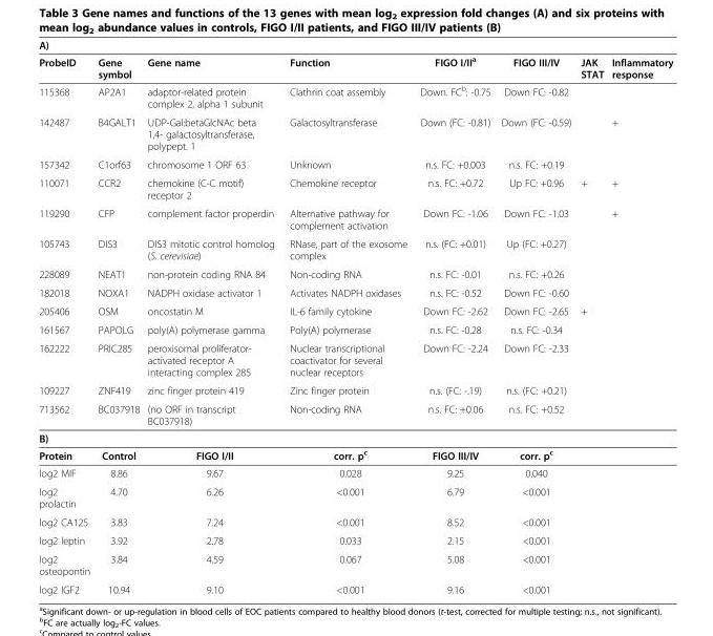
<table><thead><tr><td colspan="8">A)</td></tr><tr><td>ProbeID</td><td>Gene symbol</td><td>Gene name</td><td>Function</td><td>FIGO I/II<sup>a</sup></td><td>FIGO III/IV</td><td>JAK STAT</td><td>Inflammatory response</td></tr></thead><tbody><tr><td>115368</td><td>AP2A1</td><td>adaptor-related protein complex 2, alpha 1 subunit</td><td>Clathrin coat assembly</td><td>Down. FC<sup>b</sup>: -0.75</td><td>Down FC: -0.82</td><td></td><td></td></tr><tr><td>142487</td><td>B4GALT1</td><td>UDP-Gal:betaGlcNAc beta 1,4- galactosyltransferase, polypept. 1</td><td>Galactosyltransferase</td><td>Down (FC: -0.81)</td><td>Down (FC: -0.59)</td><td></td><td>+</td></tr><tr><td>157342</td><td>C1orf63</td><td>chromosome 1 ORF 63</td><td>Unknown</td><td>n.s. FC: +0.003</td><td>n.s. FC: +0.19</td><td></td><td></td></tr><tr><td>110071</td><td>CCR2</td><td>chemokine (C-C motif) receptor 2</td><td>Chemokine receptor</td><td>n.s. FC: +0.72</td><td>Up FC: +0.96</td><td>+</td><td>+</td></tr><tr><td>119290</td><td>CFP</td><td>complement factor properdin</td><td>Alternative pathway for complement activation</td><td>Down FC: -1.06</td><td>Down FC: -1.03</td><td></td><td>+</td></tr><tr><td>105743</td><td>DIS3</td><td>DIS3 mitotic control homolog (S. cerevisiae)</td><td>RNase, part of the exosome complex</td><td>n.s. (FC: +0.01)</td><td>Up (FC: +0.27)</td><td></td><td></td></tr><tr><td>228089</td><td>NEAT1</td><td>non-protein coding RNA 84</td><td>Non-coding RNA</td><td>n.s. FC: -0.01</td><td>n.s. FC: +0.26</td><td></td><td></td></tr><tr><td>182018</td><td>NOXA1</td><td>NADPH oxidase activator 1</td><td>Activates NADPH oxidases</td><td>n.s. FC: -0.52</td><td>Down FC: -0.60</td><td></td><td></td></tr><tr><td>205406</td><td>OSM</td><td>oncostatin M</td><td>IL-6 family cytokine</td><td>Down FC: -2.62</td><td>Down FC: -2.65</td><td>+</td><td></td></tr><tr><td>161567</td><td>PAPOLG</td><td>poly(A) polymerase gamma</td><td>Poly(A) polymerase</td><td>n.s. FC: -0.28</td><td>n.s. FC: -0.34</td><td></td><td></td></tr><tr><td>162222</td><td>PRIC285</td><td>peroxisomal proliferator- activated receptor A interacting complex 285</td><td>Nuclear transcriptional coactivator for several nuclear receptors</td><td>Down FC: -2.24</td><td>Down FC: -2.33</td><td></td><td></td></tr><tr><td>109227</td><td>ZNF419</td><td>zinc finger protein 419</td><td>Zinc finger protein</td><td>n.s. (FC: -.19)</td><td>n.s. (FC: +0.21)</td><td></td><td></td></tr><tr><td>713562</td><td>BC037918</td><td>(no ORF in transcript BC037918)</td><td>Non-coding RNA</td><td>n.s. FC: +0.06</td><td>n.s. FC: +0.52</td><td></td><td></td></tr><tr><td colspan="8">B)</td></tr><tr><td>Protein</td><td>Control</td><td>FIGO I/II</td><td>corr. p<sup>c</sup></td><td>FIGO III/IV</td><td>corr. p<sup>c</sup></td><td></td><td></td></tr><tr><td>log2 MIF</td><td>8.86</td><td>9.67</td><td>0.028</td><td>9.25</td><td>0.040</td><td></td><td></td></tr><tr><td>log2 prolactin</td><td>4.70</td><td>6.26</td><td>&lt;0.001</td><td>6.79</td><td>&lt;0.001</td><td></td><td></td></tr><tr><td>log2 CA125</td><td>3.83</td><td>7.24</td><td>&lt;0.001</td><td>8.52</td><td>&lt;0.001</td><td></td><td></td></tr><tr><td>log2 leptin</td><td>3.92</td><td>2.78</td><td>0.033</td><td>2.15</td><td>&lt;0.001</td><td></td><td></td></tr><tr><td>log2 osteopontin</td><td>3.84</td><td>4.59</td><td>0.067</td><td>5.08</td><td>&lt;0.001</td><td></td><td></td></tr><tr><td>log2 IGF2</td><td>10.94</td><td>9.10</td><td>&lt;0.001</td><td>9.16</td><td>&lt;0.001</td><td></td><td></td></tr></tbody></table>